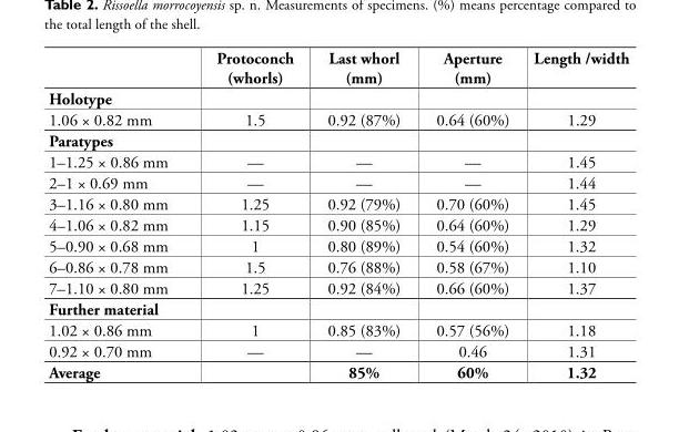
<table><thead><tr><td></td><td>Protoconch (whorls)</td><td>Last whorl (mm)</td><td>Aperture (mm)</td><td>Length /width</td></tr></thead><tbody><tr><td colspan="5">Holotype</td></tr><tr><td>1.06 × 0.82 mm</td><td>1.5</td><td>0.92 (87%)</td><td>0.64 (60%)</td><td>1.29</td></tr><tr><td colspan="5">Paratypes</td></tr><tr><td>1–1.25 × 0.86 mm</td><td>—</td><td>—</td><td>—</td><td>1.45</td></tr><tr><td>2–1 × 0.69 mm</td><td>—</td><td>—</td><td>—</td><td>1.44</td></tr><tr><td>3–1.16 × 0.80 mm</td><td>1.25</td><td>0.92 (79%)</td><td>0.70 (60%)</td><td>1.45</td></tr><tr><td>4–1.06 × 0.82 mm</td><td>1.15</td><td>0.90 (85%)</td><td>0.64 (60%)</td><td>1.29</td></tr><tr><td>5–0.90 × 0.68 mm</td><td>1</td><td>0.80 (89%)</td><td>0.54 (60%)</td><td>1.32</td></tr><tr><td>6–0.86 × 0.78 mm</td><td>1.5</td><td>0.76 (88%)</td><td>0.58 (67%)</td><td>1.10</td></tr><tr><td>7–1.10 × 0.80 mm</td><td>1.25</td><td>0.92 (84%)</td><td>0.66 (60%)</td><td>1.37</td></tr><tr><td colspan="5">Further material</td></tr><tr><td>1.02 × 0.86 mm</td><td>1</td><td>0.85 (83%)</td><td>0.57 (56%)</td><td>1.18</td></tr><tr><td>0.92 × 0.70 mm</td><td>—</td><td>—</td><td>0.46</td><td>1.31</td></tr><tr><td>Average</td><td></td><td>85%</td><td>60%</td><td>1.32</td></tr></tbody></table>